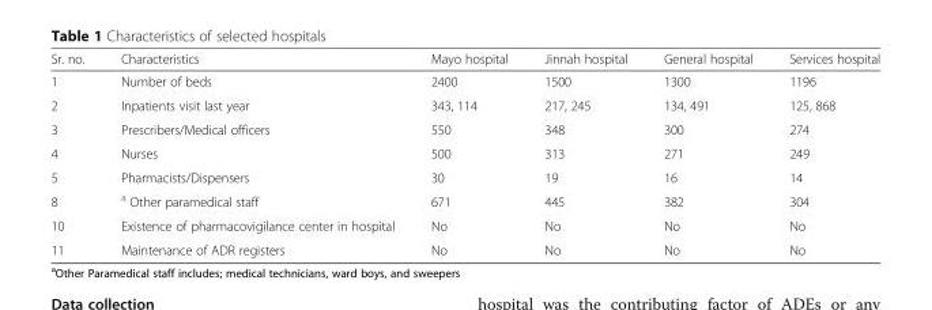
<table><thead><tr><td>Sr. no.</td><td>Characteristics</td><td>Mayo hospital</td><td>Jinnah hospital</td><td>General hospital</td><td>Services hospital</td></tr></thead><tbody><tr><td>1</td><td>Number of beds</td><td>2400</td><td>1500</td><td>1300</td><td>1196</td></tr><tr><td>2</td><td>Inpatients visit last year</td><td>343, 114</td><td>217, 245</td><td>134, 491</td><td>125, 868</td></tr><tr><td>3</td><td>Prescribers/Medical officers</td><td>550</td><td>348</td><td>300</td><td>274</td></tr><tr><td>4</td><td>Nurses</td><td>500</td><td>313</td><td>271</td><td>249</td></tr><tr><td>5</td><td>Pharmacists/Dispensers</td><td>30</td><td>19</td><td>16</td><td>14</td></tr><tr><td>8</td><td><sup>a</sup> Other paramedical staff</td><td>671</td><td>445</td><td>382</td><td>304</td></tr><tr><td>10</td><td>Existence of pharmacovigilance center in hospital</td><td>No</td><td>No</td><td>No</td><td>No</td></tr><tr><td>11</td><td>Maintenance of ADR registers</td><td>No</td><td>No</td><td>No</td><td>No</td></tr></tbody></table>